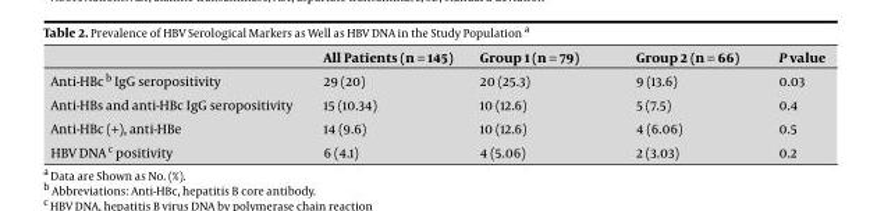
<table><thead><tr><td></td><td>All Patients (n = 145)</td><td>Group 1 (n = 79)</td><td>Group 2 (n = 66)</td><td>P value</td></tr></thead><tbody><tr><td>Anti-HBc b IgG seropositivity</td><td>29 (20)</td><td>20 (25.3)</td><td>9 (13.6)</td><td>0.03</td></tr><tr><td>Anti-HBs and anti-HBc IgG seropositivity</td><td>15 (10.34)</td><td>10 (12.6)</td><td>5 (7.5)</td><td>0.4</td></tr><tr><td>Anti-HBc (+), anti-HBe</td><td>14 (9.6)</td><td>10 (12.6)</td><td>4 (6.06)</td><td>0.5</td></tr><tr><td>HBV DNA c positivity</td><td>6 (4.1)</td><td>4 (5.06)</td><td>2 (3.03)</td><td>0.2</td></tr></tbody></table>